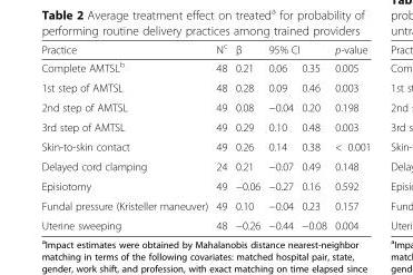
<table><thead><tr><td rowspan="2">Practice Complete AMTSL<sup>b</sup></td><td rowspan="2">N<sup>c</sup> 48</td><td rowspan="2">β 0.21</td><td colspan="2">95% CI</td><td rowspan="2">p-value 0.005</td></tr><tr><td>0.06</td><td>0.35</td></tr></thead><tbody><tr><td>1st step of AMTSL</td><td>48</td><td>0.28</td><td>0.09</td><td>0.46</td><td>0.003</td></tr><tr><td>2nd step of AMTSL</td><td>49</td><td>0.08</td><td>−0.04</td><td>0.20</td><td>0.198</td></tr><tr><td>3rd step of AMTSL</td><td>49</td><td>0.29</td><td>0.10</td><td>0.48</td><td>0.003</td></tr><tr><td>Skin-to-skin contact</td><td>49</td><td>0.26</td><td>0.14</td><td>0.38</td><td>&lt; 0.001</td></tr><tr><td>Delayed cord clamping</td><td>24</td><td>0.21</td><td>−0.07</td><td>0.49</td><td>0.148</td></tr><tr><td>Episiotomy</td><td>49</td><td>−0.06</td><td>−0.27</td><td>0.16</td><td>0.592</td></tr><tr><td>Fundal pressure (Kristeller maneuver)</td><td>49</td><td>0.10</td><td>−0.04</td><td>0.23</td><td>0.157</td></tr><tr><td>Uterine sweeping</td><td>48</td><td>−0.26</td><td>−0.44</td><td>−0.08</td><td>0.004</td></tr></tbody></table>